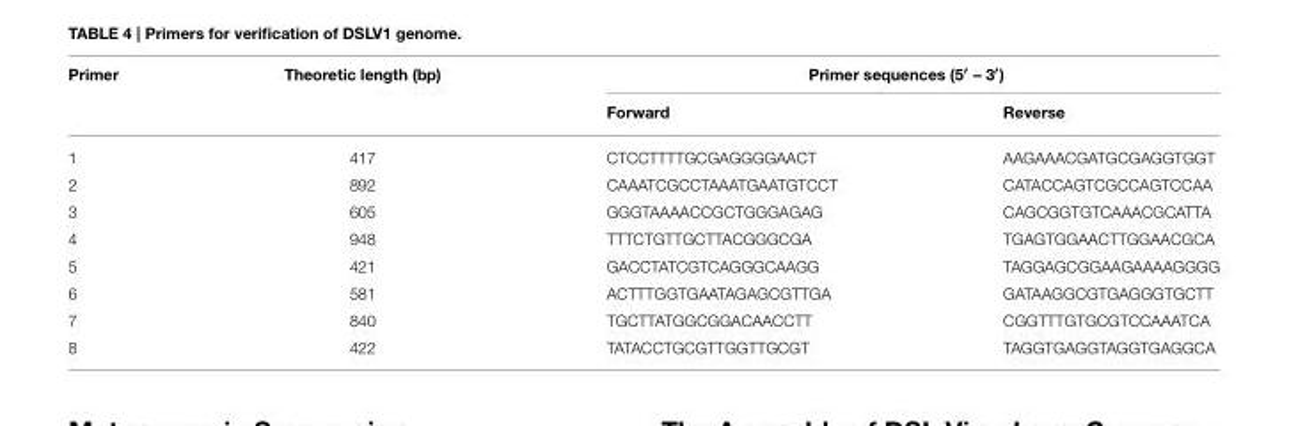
<table><thead><tr><td rowspan="2">Primer</td><td rowspan="2">Theoretic length (bp)</td><td colspan="2">Primer sequences (5<sup>′</sup> – 3<sup>′</sup>)</td></tr><tr><td>Forward</td><td>Reverse</td></tr></thead><tbody><tr><td>1</td><td>417</td><td>CTCCTTTTGCGAGGGGAACT</td><td>AAGAAACGATGCGAGGTGGT</td></tr><tr><td>2</td><td>892</td><td>CAAATCGCCTAAATGAATGTCCT</td><td>CATACCAGTCGCCAGTCCAA</td></tr><tr><td>3</td><td>605</td><td>GGGTAAAACCGCTGGGAGAG</td><td>CAGCGGTGTCAAACGCATTA</td></tr><tr><td>4</td><td>948</td><td>TTTCTGTTGCTTACGGGCGA</td><td>TGAGTGGAACTTGGAACGCA</td></tr><tr><td>5</td><td>421</td><td>GACCTATCGTCAGGGCAAGG</td><td>TAGGAGCGGAAGAAAAGGGG</td></tr><tr><td>6</td><td>581</td><td>ACTTTGGTGAATAGAGCGTTGA</td><td>GATAAGGCGTGAGGGTGCTT</td></tr><tr><td>7</td><td>840</td><td>TGCTTATGGCGGACAACCTT</td><td>CGGTTTGTGCGTCCAAATCA</td></tr><tr><td>8</td><td>422</td><td>TATACCTGCGTTGGTTGCGT</td><td>TAGGTGAGGTAGGTGAGGCA</td></tr></tbody></table>